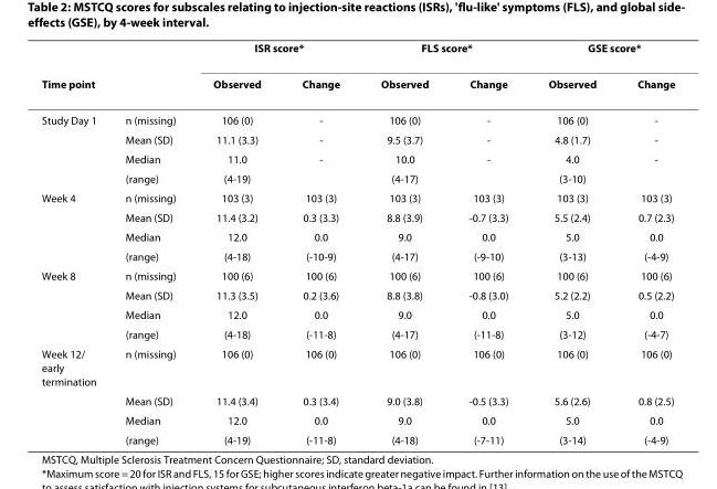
<table><thead><tr><td rowspan="2">Time point</td><td rowspan="2"></td><td colspan="2">ISR score*</td><td colspan="2">FLS score*</td><td colspan="2">GSE score*</td></tr><tr><td>Observed</td><td>Change</td><td>Observed</td><td>Change</td><td>Observed</td><td>Change</td></tr></thead><tbody><tr><td rowspan="4">Study Day 1</td><td>n (missing)</td><td>106 (0)</td><td>-</td><td>106 (0)</td><td>-</td><td>106 (0)</td><td>-</td></tr><tr><td>Mean (SD)</td><td>11.1 (3.3)</td><td>-</td><td>9.5 (3.7)</td><td>-</td><td>4.8 (1.7)</td><td>-</td></tr><tr><td>Median</td><td>11.0</td><td>-</td><td>10.0</td><td>-</td><td>4.0</td><td>-</td></tr><tr><td>(range)</td><td>(4-19)</td><td></td><td>(4-17)</td><td></td><td>(3-10)</td><td></td></tr><tr><td rowspan="4">Week 4</td><td>n (missing)</td><td>103 (3)</td><td>103 (3)</td><td>103 (3)</td><td>103 (3)</td><td>103 (3)</td><td>103 (3)</td></tr><tr><td>Mean (SD)</td><td>11.4 (3.2)</td><td>0.3 (3.3)</td><td>8.8 (3.9)</td><td>-0.7 (3.3)</td><td>5.5 (2.4)</td><td>0.7 (2.3)</td></tr><tr><td>Median</td><td>12.0</td><td>0.0</td><td>9.0</td><td>0.0</td><td>5.0</td><td>0.0</td></tr><tr><td>(range)</td><td>(4-18)</td><td>(-10-9)</td><td>(4-17)</td><td>(-9-10)</td><td>(3-13)</td><td>(-4-9)</td></tr><tr><td rowspan="4">Week 8</td><td>n (missing)</td><td>100 (6)</td><td>100 (6)</td><td>100 (6)</td><td>100 (6)</td><td>100 (6)</td><td>100 (6)</td></tr><tr><td>Mean (SD)</td><td>11.3 (3.5)</td><td>0.2 (3.6)</td><td>8.8 (3.8)</td><td>-0.8 (3.0)</td><td>5.2 (2.2)</td><td>0.5 (2.2)</td></tr><tr><td>Median</td><td>12.0</td><td>0.0</td><td>9.0</td><td>0.0</td><td>5.0</td><td>0.0</td></tr><tr><td>(range)</td><td>(4-18)</td><td>(-11-8)</td><td>(4-17)</td><td>(-11-8)</td><td>(3-12)</td><td>(-4-7)</td></tr><tr><td rowspan="4">Week 12/ early termination</td><td>n (missing)</td><td>106 (0)</td><td>106 (0)</td><td>106 (0)</td><td>106 (0)</td><td>106 (0)</td><td>106 (0)</td></tr><tr><td>Mean (SD)</td><td>11.4 (3.4)</td><td>0.3 (3.4)</td><td>9.0 (3.8)</td><td>-0.5 (3.3)</td><td>5.6 (2.6)</td><td>0.8 (2.5)</td></tr><tr><td>Median</td><td>12.0</td><td>0.0</td><td>9.0</td><td>0.0</td><td>5.0</td><td>0.0</td></tr><tr><td>(range)</td><td>(4-19)</td><td>(-11-8)</td><td>(4-18)</td><td>(-7-11)</td><td>(3-14)</td><td>(-4-9)</td></tr></tbody></table>